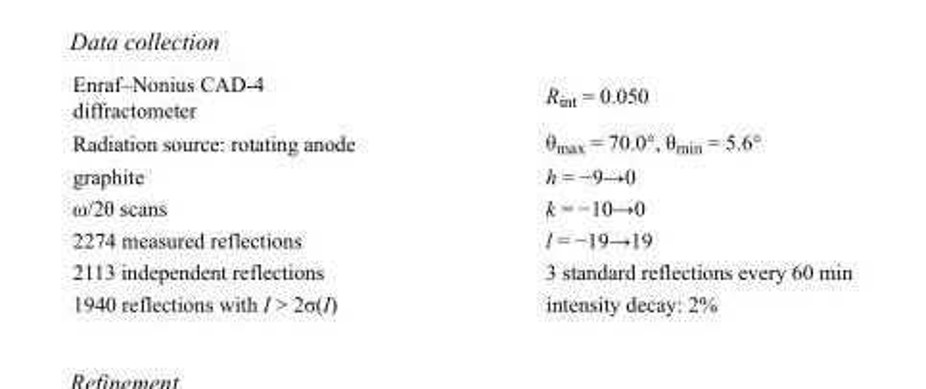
<table><tbody><tr><td>Enraf–Nonius CAD-4 diffractometer</td><td>R<sub>int</sub> = 0.050</td></tr><tr><td>Radiation source: rotating anode</td><td>θ<sub>max</sub> = 70.0°, θ<sub>min</sub> = 5.6°</td></tr><tr><td>graphite</td><td>h = −9→0</td></tr><tr><td>ω/2θ scans</td><td>k = −10→0</td></tr><tr><td>2274 measured reflections</td><td>l = −19→19</td></tr><tr><td>2113 independent reflections</td><td>3 standard reflections every 60 min</td></tr><tr><td>1940 reflections with I &gt; 2σ(I)</td><td>intensity decay: 2%</td></tr></tbody></table>